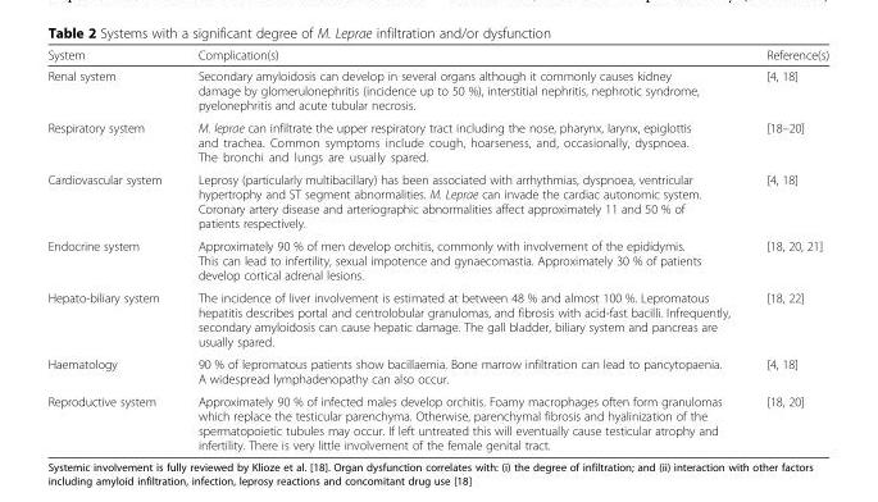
<table><thead><tr><td>System</td><td>Complication(s)</td><td>Reference(s)</td></tr></thead><tbody><tr><td>Renal system</td><td>Secondary amyloidosis can develop in several organs although it commonly causes kidney damage by glomerulonephritis (incidence up to 50 %), interstitial nephritis, nephrotic syndrome, pyelonephritis and acute tubular necrosis.</td><td>[4, 18]</td></tr><tr><td>Respiratory system</td><td>M. leprae can infiltrate the upper respiratory tract including the nose, pharynx, larynx, epiglottis and trachea. Common symptoms include cough, hoarseness, and, occasionally, dyspnoea. The bronchi and lungs are usually spared.</td><td>[18–20]</td></tr><tr><td>Cardiovascular system</td><td>Leprosy (particularly multibacillary) has been associated with arrhythmias, dyspnoea, ventricular hypertrophy and ST segment abnormalities. M. Leprae can invade the cardiac autonomic system. Coronary artery disease and arteriographic abnormalities affect approximately 11 and 50 % of patients respectively.</td><td>[4, 18]</td></tr><tr><td>Endocrine system</td><td>Approximately 90 % of men develop orchitis, commonly with involvement of the epididymis. This can lead to infertility, sexual impotence and gynaecomastia. Approximately 30 % of patients develop cortical adrenal lesions.</td><td>[18, 20, 21]</td></tr><tr><td>Hepato-biliary system</td><td>The incidence of liver involvement is estimated at between 48 % and almost 100 %. Lepromatous hepatitis describes portal and centrolobular granulomas, and fibrosis with acid-fast bacilli. Infrequently, secondary amyloidosis can cause hepatic damage. The gall bladder, biliary system and pancreas are usually spared.</td><td>[18, 22]</td></tr><tr><td>Haematology</td><td>90 % of lepromatous patients show bacillaemia. Bone marrow infiltration can lead to pancytopaenia. A widespread lymphadenopathy can also occur.</td><td>[4, 18]</td></tr><tr><td>Reproductive system</td><td>Approximately 90 % of infected males develop orchitis. Foamy macrophages often form granulomas which replace the testicular parenchyma. Otherwise, parenchymal fibrosis and hyalinization of the spermatopoietic tubules may occur. If left untreated this will eventually cause testicular atrophy and infertility. There is very little involvement of the female genital tract.</td><td>[18, 20]</td></tr></tbody></table>